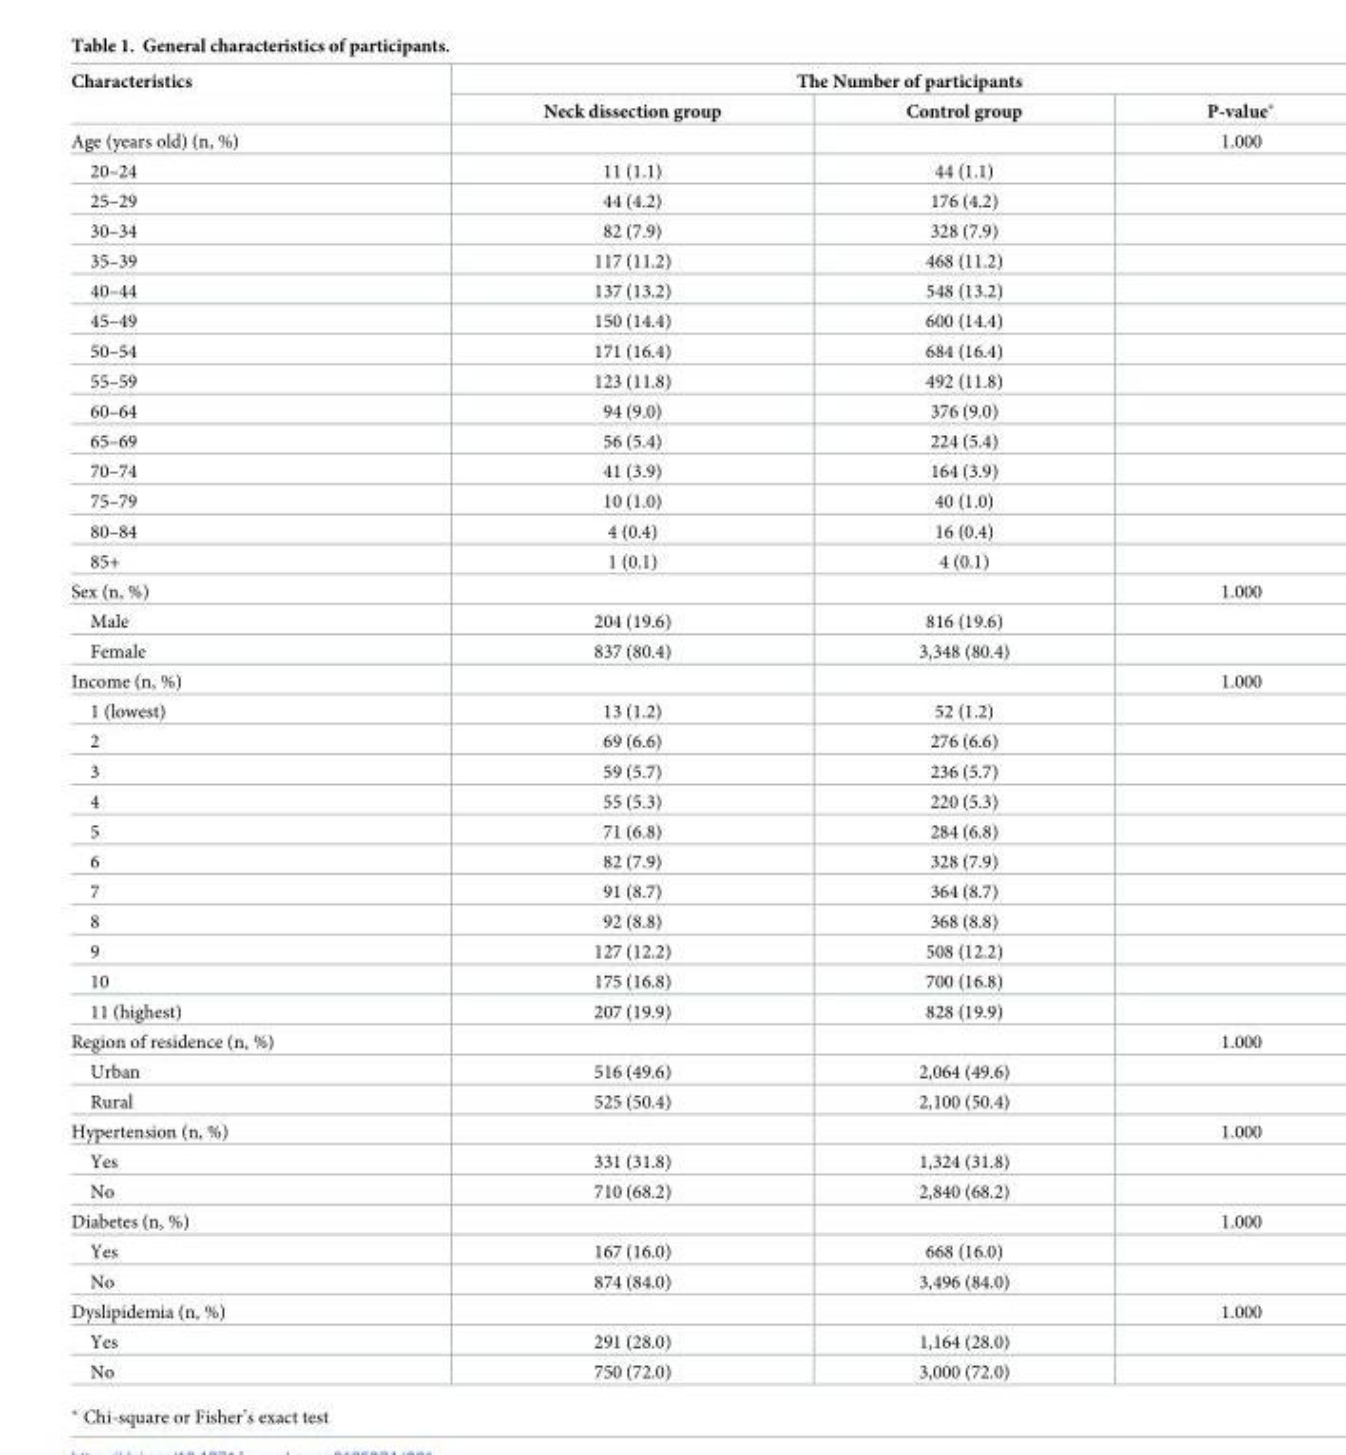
<table><thead><tr><td rowspan="2">Characteristics</td><td colspan="3">The Number of participants</td></tr><tr><td>Neck dissection group</td><td>Control group</td><td>P-value*</td></tr></thead><tbody><tr><td>Age (years old) (n, %)</td><td></td><td></td><td>1.000</td></tr><tr><td>20–24</td><td>11 (1.1)</td><td>44 (1.1)</td><td></td></tr><tr><td>25–29</td><td>44 (4.2)</td><td>176 (4.2)</td><td></td></tr><tr><td>30–34</td><td>82 (7.9)</td><td>328 (7.9)</td><td></td></tr><tr><td>35–39</td><td>117 (11.2)</td><td>468 (11.2)</td><td></td></tr><tr><td>40–44</td><td>137 (13.2)</td><td>548 (13.2)</td><td></td></tr><tr><td>45–49</td><td>150 (14.4)</td><td>600 (14.4)</td><td></td></tr><tr><td>50–54</td><td>171 (16.4)</td><td>684 (16.4)</td><td></td></tr><tr><td>55–59</td><td>123 (11.8)</td><td>492 (11.8)</td><td></td></tr><tr><td>60–64</td><td>94 (9.0)</td><td>376 (9.0)</td><td></td></tr><tr><td>65–69</td><td>56 (5.4)</td><td>224 (5.4)</td><td></td></tr><tr><td>70–74</td><td>41 (3.9)</td><td>164 (3.9)</td><td></td></tr><tr><td>75–79</td><td>10 (1.0)</td><td>40 (1.0)</td><td></td></tr><tr><td>80–84</td><td>4 (0.4)</td><td>16 (0.4)</td><td></td></tr><tr><td>85+</td><td>1 (0.1)</td><td>4 (0.1)</td><td></td></tr><tr><td>Sex (n, %)</td><td></td><td></td><td>1.000</td></tr><tr><td>Male</td><td>204 (19.6)</td><td>816 (19.6)</td><td></td></tr><tr><td>Female</td><td>837 (80.4)</td><td>3,348 (80.4)</td><td></td></tr><tr><td>Income (n, %)</td><td></td><td></td><td>1.000</td></tr><tr><td>1 (lowest)</td><td>13 (1.2)</td><td>52 (1.2)</td><td></td></tr><tr><td>2</td><td>69 (6.6)</td><td>276 (6.6)</td><td></td></tr><tr><td>3</td><td>59 (5.7)</td><td>236 (5.7)</td><td></td></tr><tr><td>4</td><td>55 (5.3)</td><td>220 (5.3)</td><td></td></tr><tr><td>5</td><td>71 (6.8)</td><td>284 (6.8)</td><td></td></tr><tr><td>6</td><td>82 (7.9)</td><td>328 (7.9)</td><td></td></tr><tr><td>7</td><td>91 (8.7)</td><td>364 (8.7)</td><td></td></tr><tr><td>8</td><td>92 (8.8)</td><td>368 (8.8)</td><td></td></tr><tr><td>9</td><td>127 (12.2)</td><td>508 (12.2)</td><td></td></tr><tr><td>10</td><td>175 (16.8)</td><td>700 (16.8)</td><td></td></tr><tr><td>11 (highest)</td><td>207 (19.9)</td><td>828 (19.9)</td><td></td></tr><tr><td>Region of residence (n, %)</td><td></td><td></td><td>1.000</td></tr><tr><td>Urban</td><td>516 (49.6)</td><td>2,064 (49.6)</td><td></td></tr><tr><td>Rural</td><td>525 (50.4)</td><td>2,100 (50.4)</td><td></td></tr><tr><td>Hypertension (n, %)</td><td></td><td></td><td>1.000</td></tr><tr><td>Yes</td><td>331 (31.8)</td><td>1,324 (31.8)</td><td></td></tr><tr><td>No</td><td>710 (68.2)</td><td>2,840 (68.2)</td><td></td></tr><tr><td>Diabetes (n, %)</td><td></td><td></td><td>1.000</td></tr><tr><td>Yes</td><td>167 (16.0)</td><td>668 (16.0)</td><td></td></tr><tr><td>No</td><td>874 (84.0)</td><td>3,496 (84.0)</td><td></td></tr><tr><td>Dyslipidemia (n, %)</td><td></td><td></td><td>1.000</td></tr><tr><td>Yes</td><td>291 (28.0)</td><td>1,164 (28.0)</td><td></td></tr><tr><td>No</td><td>750 (72.0)</td><td>3,000 (72.0)</td><td></td></tr></tbody></table>